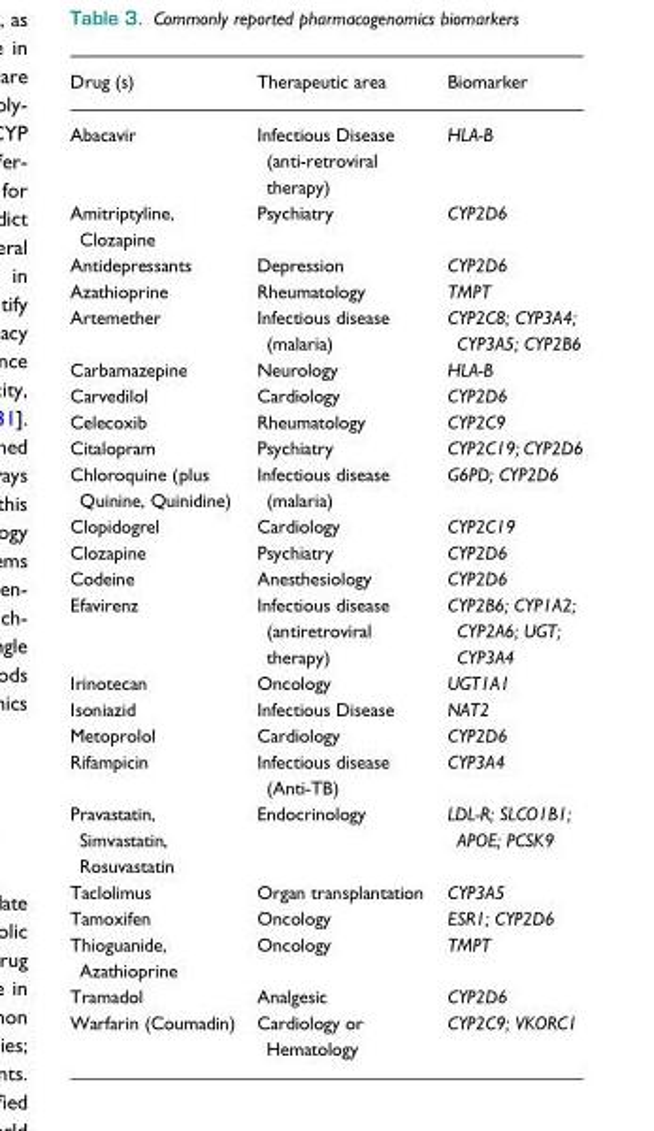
<table><thead><tr><td>Drug (s)</td><td>Therapeutic area</td><td>Biomarker</td></tr></thead><tbody><tr><td>Abacavir</td><td>Infectious Disease (anti-retroviral therapy)</td><td>HLA-B</td></tr><tr><td>Amitriptyline, Clozapine</td><td>Psychiatry</td><td>CYP2D6</td></tr><tr><td>Antidepressants</td><td>Depression</td><td>CYP2D6</td></tr><tr><td>Azathioprine</td><td>Rheumatology</td><td>TMPT</td></tr><tr><td>Artemether</td><td>Infectious disease (malaria)</td><td>CYP2C8; CYP3A4; CYP3A5; CYP2B6</td></tr><tr><td>Carbamazepine</td><td>Neurology</td><td>HLA-B</td></tr><tr><td>Carvedilol</td><td>Cardiology</td><td>CYP2D6</td></tr><tr><td>Celecoxib</td><td>Rheumatology</td><td>CYP2C9</td></tr><tr><td>Citalopram</td><td>Psychiatry</td><td>CYP2C19; CYP2D6</td></tr><tr><td>Chloroquine (plus Quinine, Quinidine)</td><td>Infectious disease (malaria)</td><td>G6PD; CYP2D6</td></tr><tr><td>Clopidogrel</td><td>Cardiology</td><td>CYP2C19</td></tr><tr><td>Clozapine</td><td>Psychiatry</td><td>CYP2D6</td></tr><tr><td>Codeine</td><td>Anesthesiology</td><td>CYP2D6</td></tr><tr><td>Efavirenz</td><td>Infectious disease (antiretroviral therapy)</td><td>CYP2B6; CYP1A2; CYP2A6; UGT; CYP3A4</td></tr><tr><td>Irinotecan</td><td>Oncology</td><td>UGT1A1</td></tr><tr><td>Isoniazid</td><td>Infectious Disease</td><td>NAT2</td></tr><tr><td>Metoprolol</td><td>Cardiology</td><td>CYP2D6</td></tr><tr><td>Rifampicin</td><td>Infectious disease (Anti-TB)</td><td>CYP3A4</td></tr><tr><td>Pravastatin, Simvastatin, Rosuvastatin</td><td>Endocrinology</td><td>LDL-R; SLCO1B1; APOE; PCSK9</td></tr><tr><td>Taclolimus</td><td>Organ transplantation</td><td>CYP3A5</td></tr><tr><td>Tamoxifen</td><td>Oncology</td><td>ESR1; CYP2D6</td></tr><tr><td>Thioguanide, Azathioprine</td><td>Oncology</td><td>TMPT</td></tr><tr><td>Tramadol</td><td>Analgesic</td><td>CYP2D6</td></tr><tr><td>Warfarin (Coumadin)</td><td>Cardiology or Hematology</td><td>CYP2C9; VKORC1</td></tr></tbody></table>